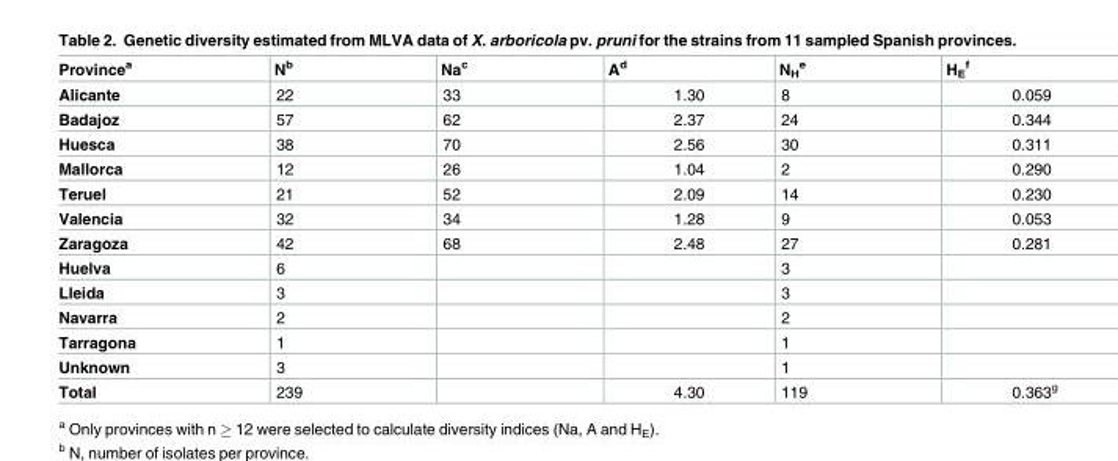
<table><thead><tr><td>Province<sup>a</sup></td><td>N<sup>b</sup></td><td>Na<sup>c</sup></td><td>A<sup>d</sup></td><td>N<sub>H</sub> <sup>e</sup></td><td>H<sub>E</sub> <sup>f</sup></td></tr></thead><tbody><tr><td>Alicante</td><td>22</td><td>33</td><td>1.30</td><td>8</td><td>0.059</td></tr><tr><td>Badajoz</td><td>57</td><td>62</td><td>2.37</td><td>24</td><td>0.344</td></tr><tr><td>Huesca</td><td>38</td><td>70</td><td>2.56</td><td>30</td><td>0.311</td></tr><tr><td>Mallorca</td><td>12</td><td>26</td><td>1.04</td><td>2</td><td>0.290</td></tr><tr><td>Teruel</td><td>21</td><td>52</td><td>2.09</td><td>14</td><td>0.230</td></tr><tr><td>Valencia</td><td>32</td><td>34</td><td>1.28</td><td>9</td><td>0.053</td></tr><tr><td>Zaragoza</td><td>42</td><td>68</td><td>2.48</td><td>27</td><td>0.281</td></tr><tr><td>Huelva</td><td>6</td><td></td><td></td><td>3</td><td></td></tr><tr><td>Lleida</td><td>3</td><td></td><td></td><td>3</td><td></td></tr><tr><td>Navarra</td><td>2</td><td></td><td></td><td>2</td><td></td></tr><tr><td>Tarragona</td><td>1</td><td></td><td></td><td>1</td><td></td></tr><tr><td>Unknown</td><td>3</td><td></td><td></td><td>1</td><td></td></tr><tr><td>Total</td><td>239</td><td></td><td>4.30</td><td>119</td><td>0.363<sup>g</sup></td></tr></tbody></table>